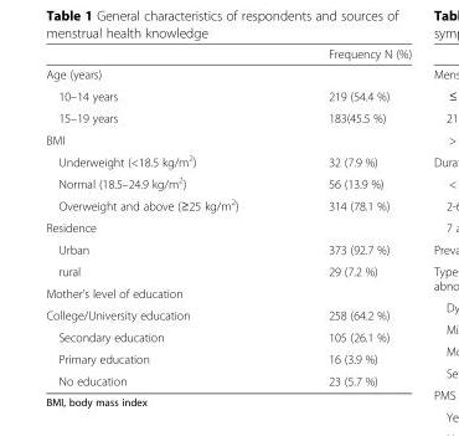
<table><thead><tr><td></td><td>Frequency N (%)</td></tr></thead><tbody><tr><td colspan="2">Age (years)</td></tr><tr><td>10–14 years</td><td>219 (54.4 %)</td></tr><tr><td>15–19 years</td><td>183(45.5 %)</td></tr><tr><td colspan="2">BMI</td></tr><tr><td>Underweight (&lt;18.5 kg/m<sup>2</sup>)</td><td>32 (7.9 %)</td></tr><tr><td>Normal (18.5–24.9 kg/m<sup>2</sup>)</td><td>56 (13.9 %)</td></tr><tr><td>Overweight and above (≥25 kg/m<sup>2</sup>)</td><td>314 (78.1 %)</td></tr><tr><td colspan="2">Residence</td></tr><tr><td>Urban</td><td>373 (92.7 %)</td></tr><tr><td>rural</td><td>29 (7.2 %)</td></tr><tr><td colspan="2">Mother’s level of education</td></tr><tr><td>College/University education</td><td>258 (64.2 %)</td></tr><tr><td>Secondary education</td><td>105 (26.1 %)</td></tr><tr><td>Primary education</td><td>16 (3.9 %)</td></tr><tr><td>No education</td><td>23 (5.7 %)</td></tr></tbody></table>